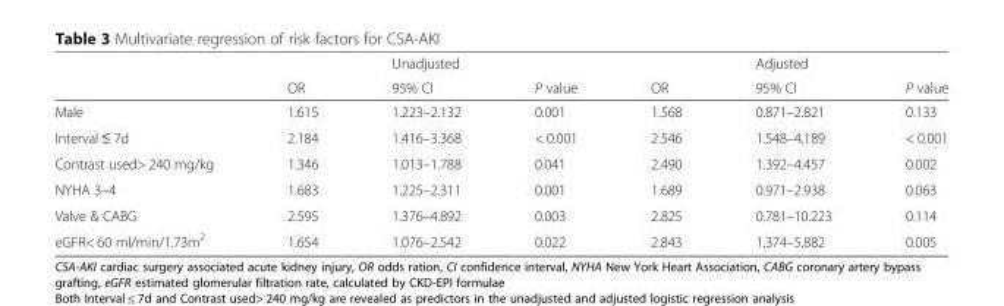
<table><thead><tr><td rowspan="2"></td><td rowspan="2">OR</td><td rowspan="2">Unadjusted 95% CI</td><td rowspan="2">P value</td><td rowspan="2">OR</td><td rowspan="2">Adjusted 95% CI</td><td rowspan="2">P value</td></tr><tr></tr></thead><tbody><tr><td>Male</td><td>1.615</td><td>1.223–2.132</td><td>0.001</td><td>1.568</td><td>0.871–2.821</td><td>0.133</td></tr><tr><td>Interval ≤ 7d</td><td>2.184</td><td>1.416–3.368</td><td>&lt; 0.001</td><td>2.546</td><td>1.548–4.189</td><td>&lt; 0.001</td></tr><tr><td>Contrast used&gt; 240 mg/kg</td><td>1.346</td><td>1.013–1.788</td><td>0.041</td><td>2.490</td><td>1.392–4.457</td><td>0.002</td></tr><tr><td>NYHA 3–4</td><td>1.683</td><td>1.225–2.311</td><td>0.001</td><td>1.689</td><td>0.971–2.938</td><td>0.063</td></tr><tr><td>Valve &amp; CABG</td><td>2.595</td><td>1.376–4.892</td><td>0.003</td><td>2.825</td><td>0.781–10.223</td><td>0.114</td></tr><tr><td>eGFR&lt; 60 ml/min/1.73m<sup>2</sup></td><td>1.654</td><td>1.076–2.542</td><td>0.022</td><td>2.843</td><td>1.374–5.882</td><td>0.005</td></tr></tbody></table>